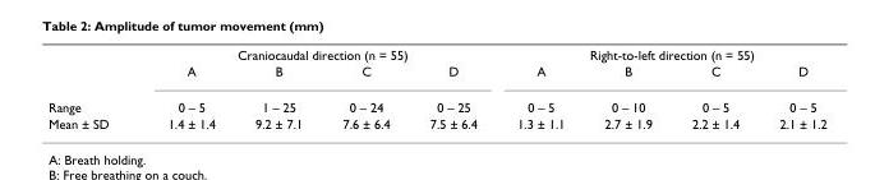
<table><thead><tr><td rowspan="2"></td><td colspan="4">Craniocaudal direction (n = 55)</td><td colspan="4">Right-to-left direction (n = 55)</td></tr><tr><td>A</td><td>B</td><td>C</td><td>D</td><td>A</td><td>B</td><td>C</td><td>D</td></tr></thead><tbody><tr><td>Range</td><td>0 – 5</td><td>1 – 25</td><td>0 – 24</td><td>0 – 25</td><td>0 – 5</td><td>0 – 10</td><td>0 – 5</td><td>0 – 5</td></tr><tr><td>Mean ± SD</td><td>1.4 ± 1.4</td><td>9.2 ± 7.1</td><td>7.6 ± 6.4</td><td>7.5 ± 6.4</td><td>1.3 ± 1.1</td><td>2.7 ± 1.9</td><td>2.2 ± 1.4</td><td>2.1 ± 1.2</td></tr></tbody></table>